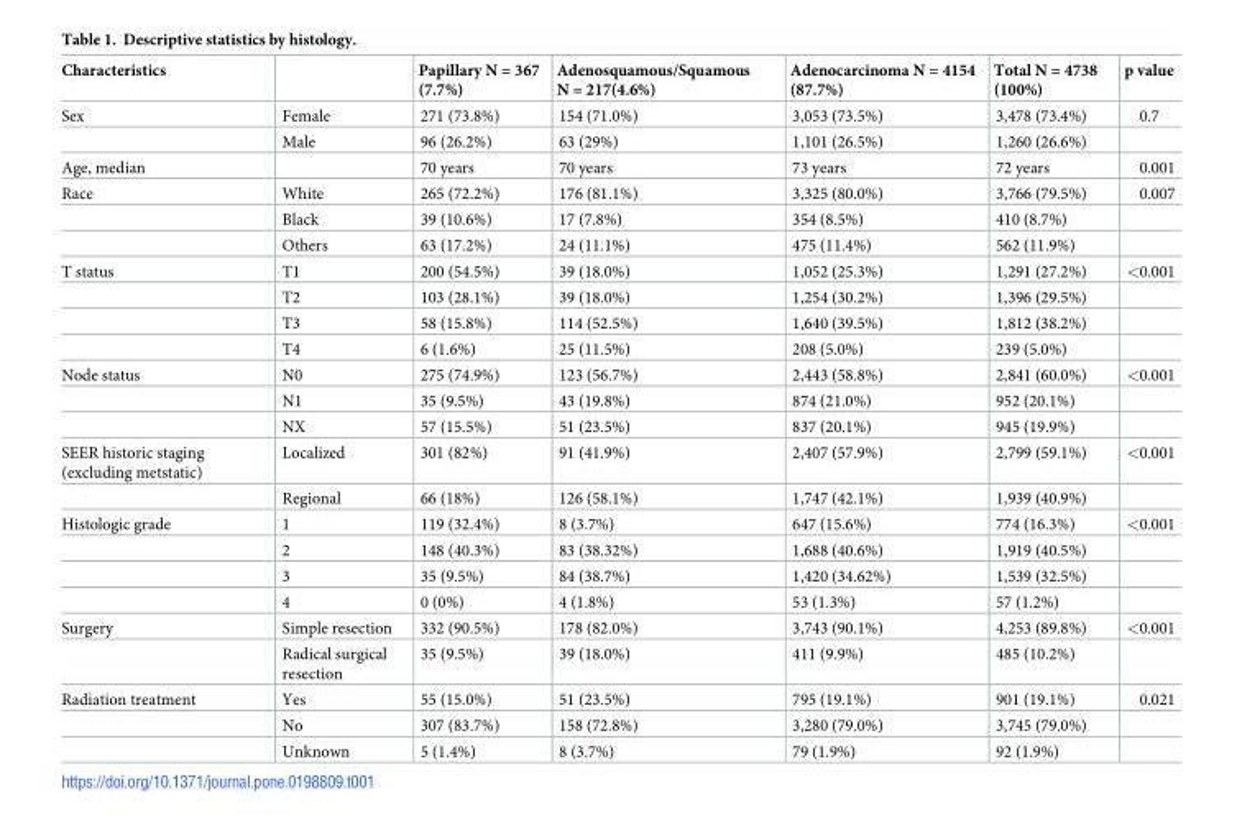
<table><thead><tr><td>Characteristics</td><td></td><td>Papillary N = 367 (7.7%)</td><td>Adenosquamous/Squamous N = 217(4.6%)</td><td>Adenocarcinoma N = 4154 (87.7%)</td><td>Total N = 4738 (100%)</td><td>p value</td></tr></thead><tbody><tr><td rowspan="2">Sex</td><td>Female</td><td>271 (73.8%)</td><td>154 (71.0%)</td><td>3,053 (73.5%)</td><td>3,478 (73.4%)</td><td>0.7</td></tr><tr><td>Male</td><td>96 (26.2%)</td><td>63 (29%)</td><td>1,101 (26.5%)</td><td>1,260 (26.6%)</td><td></td></tr><tr><td>Age, median</td><td></td><td>70 years</td><td>70 years</td><td>73 years</td><td>72 years</td><td>0.001</td></tr><tr><td rowspan="3">Race</td><td>White</td><td>265 (72.2%)</td><td>176 (81.1%)</td><td>3,325 (80.0%)</td><td>3,766 (79.5%)</td><td>0.007</td></tr><tr><td>Black</td><td>39 (10.6%)</td><td>17 (7.8%)</td><td>354 (8.5%)</td><td>410 (8.7%)</td><td></td></tr><tr><td>Others</td><td>63 (17.2%)</td><td>24 (11.1%)</td><td>475 (11.4%)</td><td>562 (11.9%)</td><td></td></tr><tr><td rowspan="4">T status</td><td>T1</td><td>200 (54.5%)</td><td>39 (18.0%)</td><td>1,052 (25.3%)</td><td>1,291 (27.2%)</td><td>&lt;0.001</td></tr><tr><td>T2</td><td>103 (28.1%)</td><td>39 (18.0%)</td><td>1,254 (30.2%)</td><td>1,396 (29.5%)</td><td></td></tr><tr><td>T3</td><td>58 (15.8%)</td><td>114 (52.5%)</td><td>1,640 (39.5%)</td><td>1,812 (38.2%)</td><td></td></tr><tr><td>T4</td><td>6 (1.6%)</td><td>25 (11.5%)</td><td>208 (5.0%)</td><td>239 (5.0%)</td><td></td></tr><tr><td rowspan="3">Node status</td><td>N0</td><td>275 (74.9%)</td><td>123 (56.7%)</td><td>2,443 (58.8%)</td><td>2,841 (60.0%)</td><td>&lt;0.001</td></tr><tr><td>N1</td><td>35 (9.5%)</td><td>43 (19.8%)</td><td>874 (21.0%)</td><td>952 (20.1%)</td><td></td></tr><tr><td>NX</td><td>57 (15.5%)</td><td>51 (23.5%)</td><td>837 (20.1%)</td><td>945 (19.9%)</td><td></td></tr><tr><td rowspan="2">SEER historic staging (excluding metstatic)</td><td>Localized</td><td>301 (82%)</td><td>91 (41.9%)</td><td>2,407 (57.9%)</td><td>2,799 (59.1%)</td><td>&lt;0.001</td></tr><tr><td>Regional</td><td>66 (18%)</td><td>126 (58.1%)</td><td>1,747 (42.1%)</td><td>1,939 (40.9%)</td><td></td></tr><tr><td rowspan="4">Histologic grade</td><td>1</td><td>119 (32.4%)</td><td>8 (3.7%)</td><td>647 (15.6%)</td><td>774 (16.3%)</td><td>&lt;0.001</td></tr><tr><td>2</td><td>148 (40.3%)</td><td>83 (38.32%)</td><td>1,688 (40.6%)</td><td>1,919 (40.5%)</td><td></td></tr><tr><td>3</td><td>35 (9.5%)</td><td>84 (38.7%)</td><td>1,420 (34.62%)</td><td>1,539 (32.5%)</td><td></td></tr><tr><td>4</td><td>0 (0%)</td><td>4 (1.8%)</td><td>53 (1.3%)</td><td>57 (1.2%)</td><td></td></tr><tr><td rowspan="2">Surgery</td><td>Simple resection</td><td>332 (90.5%)</td><td>178 (82.0%)</td><td>3,743 (90.1%)</td><td>4,253 (89.8%)</td><td>&lt;0.001</td></tr><tr><td>Radical surgical resection</td><td>35 (9.5%)</td><td>39 (18.0%)</td><td>411 (9.9%)</td><td>485 (10.2%)</td><td></td></tr><tr><td rowspan="3">Radiation treatment</td><td>Yes</td><td>55 (15.0%)</td><td>51 (23.5%)</td><td>795 (19.1%)</td><td>901 (19.1%)</td><td>0.021</td></tr><tr><td>No</td><td>307 (83.7%)</td><td>158 (72.8%)</td><td>3,280 (79.0%)</td><td>3,745 (79.0%)</td><td></td></tr><tr><td>Unknown</td><td>5 (1.4%)</td><td>8 (3.7%)</td><td>79 (1.9%)</td><td>92 (1.9%)</td><td></td></tr></tbody></table>